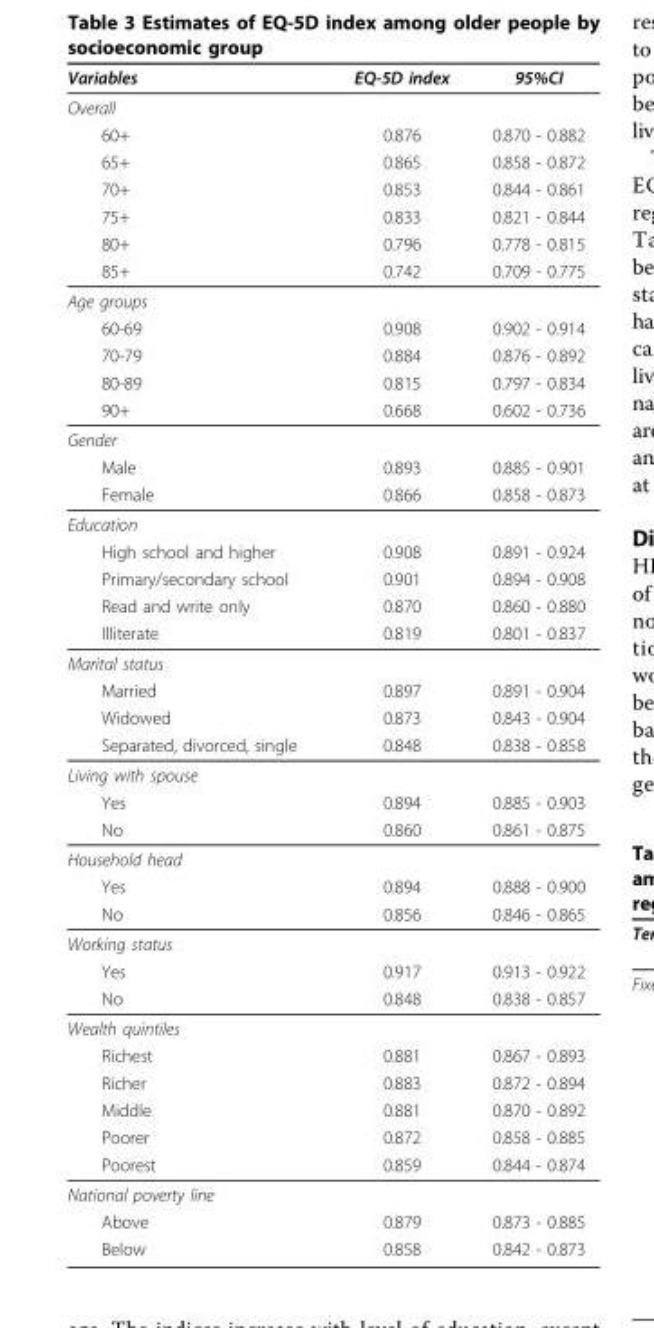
<table><thead><tr><td>Variables</td><td>EQ-5D index</td><td>95%CI</td></tr></thead><tbody><tr><td colspan="3">Overall</td></tr><tr><td>60+</td><td>0.876</td><td>0.870 - 0.882</td></tr><tr><td>65+</td><td>0.865</td><td>0.858 - 0.872</td></tr><tr><td>70+</td><td>0.853</td><td>0.844 - 0.861</td></tr><tr><td>75+</td><td>0.833</td><td>0.821 - 0.844</td></tr><tr><td>80+</td><td>0.796</td><td>0.778 - 0.815</td></tr><tr><td>85+</td><td>0.742</td><td>0.709 - 0.775</td></tr><tr><td colspan="3">Age groups</td></tr><tr><td>60-69</td><td>0.908</td><td>0.902 - 0.914</td></tr><tr><td>70-79</td><td>0.884</td><td>0.876 - 0.892</td></tr><tr><td>80-89</td><td>0.815</td><td>0.797 - 0.834</td></tr><tr><td>90+</td><td>0.668</td><td>0.602 - 0.736</td></tr><tr><td colspan="3">Gender</td></tr><tr><td>Male</td><td>0.893</td><td>0.885 - 0.901</td></tr><tr><td>Female</td><td>0.866</td><td>0.858 - 0.873</td></tr><tr><td colspan="3">Education</td></tr><tr><td>High school and higher</td><td>0.908</td><td>0.891 - 0.924</td></tr><tr><td>Primary/secondary school</td><td>0.901</td><td>0.894 - 0.908</td></tr><tr><td>Read and write only</td><td>0.870</td><td>0.860 - 0.880</td></tr><tr><td>Illiterate</td><td>0.819</td><td>0.801 - 0.837</td></tr><tr><td colspan="3">Marital status</td></tr><tr><td>Married</td><td>0.897</td><td>0.891 - 0.904</td></tr><tr><td>Widowed</td><td>0.873</td><td>0.843 - 0.904</td></tr><tr><td>Separated, divorced, single</td><td>0.848</td><td>0.838 - 0.858</td></tr><tr><td colspan="3">Living with spouse</td></tr><tr><td>Yes</td><td>0.894</td><td>0.885 - 0.903</td></tr><tr><td>No</td><td>0.860</td><td>0.861 - 0.875</td></tr><tr><td colspan="3">Household head</td></tr><tr><td>Yes</td><td>0.894</td><td>0.888 - 0.900</td></tr><tr><td>No</td><td>0.856</td><td>0.846 - 0.865</td></tr><tr><td colspan="3">Working status</td></tr><tr><td>Yes</td><td>0.917</td><td>0.913 - 0.922</td></tr><tr><td>No</td><td>0.848</td><td>0.838 - 0.857</td></tr><tr><td colspan="3">Wealth quintiles</td></tr><tr><td>Richest</td><td>0.881</td><td>0.867 - 0.893</td></tr><tr><td>Richer</td><td>0.883</td><td>0.872 - 0.894</td></tr><tr><td>Middle</td><td>0.881</td><td>0.870 - 0.892</td></tr><tr><td>Poorer</td><td>0.872</td><td>0.858 - 0.885</td></tr><tr><td>Poorest</td><td>0.859</td><td>0.844 - 0.874</td></tr><tr><td colspan="3">National poverty line</td></tr><tr><td>Above</td><td>0.879</td><td>0.873 - 0.885</td></tr><tr><td>Below</td><td>0.858</td><td>0.842 - 0.873</td></tr></tbody></table>